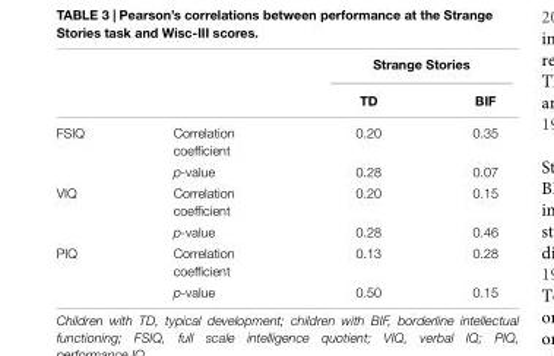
<table><thead><tr><td rowspan="2"></td><td rowspan="2"></td><td colspan="2">Strange Stories</td></tr><tr><td>TD</td><td>BIF</td></tr></thead><tbody><tr><td rowspan="2">FSIQ</td><td>Correlation coefficient</td><td>0.20</td><td>0.35</td></tr><tr><td>p-value</td><td>0.28</td><td>0.07</td></tr><tr><td rowspan="2">VIQ</td><td>Correlation coefficient</td><td>0.20</td><td>0.15</td></tr><tr><td>p-value</td><td>0.28</td><td>0.46</td></tr><tr><td rowspan="2">PIQ</td><td>Correlation coefficient</td><td>0.13</td><td>0.28</td></tr><tr><td>p-value</td><td>0.50</td><td>0.15</td></tr></tbody></table>